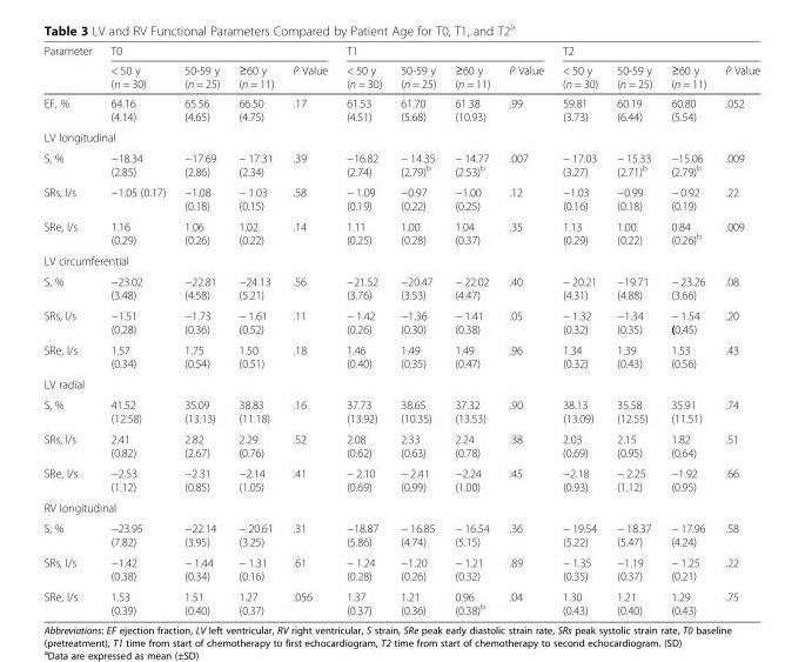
<table><thead><tr><td rowspan="2">Parameter</td><td colspan="4">T0</td><td colspan="4">T1</td><td colspan="4">T2</td></tr><tr><td>&lt; 50 y (n = 30)</td><td>50-59 y (n = 25)</td><td>≥60 y (n = 11)</td><td>P Value</td><td>&lt; 50 y (n = 30)</td><td>50-59 y (n = 25)</td><td>≥60 y (n = 11)</td><td>P Value</td><td>&lt; 50 y (n = 30)</td><td>50-59 y (n = 25)</td><td>≥60 y (n = 11)</td><td>P Value</td></tr></thead><tbody><tr><td>EF, %</td><td>64.16 (4.14)</td><td>65.56 (4.65)</td><td>66.50 (4.75)</td><td>.17</td><td>61.53 (4.51)</td><td>61.70 (5.68)</td><td>61.38 (10.93)</td><td>.99</td><td>59.81 (3.73)</td><td>60.19 (6.44)</td><td>60.80 (5.54)</td><td>.052</td></tr><tr><td colspan="13">LV longitudinal</td></tr><tr><td>S, %</td><td>−18.34 (2.85)</td><td>−17.69 (2.86)</td><td>− 17.31 (2.34)</td><td>.39</td><td>−16.82 (2.74)</td><td>− 14.35 (2.79)<sup>b</sup></td><td>− 14.77 (2.53)<sup>b</sup></td><td>.007</td><td>− 17.03 (3.27)</td><td>− 15.33 (2.71)<sup>b</sup></td><td>−15.06 (2.79)<sup>b</sup></td><td>.009</td></tr><tr><td>SRs, l/s</td><td>−1.05 (0.17)</td><td>−1.08 (0.18)</td><td>− 1.03 (0.15)</td><td>.58</td><td>− 1.09 (0.19)</td><td>−0.97 (0.22)</td><td>−1.00 (0.25)</td><td>.12</td><td>−1.03 (0.16)</td><td>−0.99 (0.18)</td><td>− 0.92 (0.19)</td><td>.22</td></tr><tr><td>SRe, l/s</td><td>1.16 (0.29)</td><td>1.06 (0.26)</td><td>1.02 (0.22)</td><td>.14</td><td>1.11 (0.25)</td><td>1.00 (0.28)</td><td>1.04 (0.37)</td><td>.35</td><td>1.13 (0.29)</td><td>1.00 (0.22)</td><td>0.84 (0.26)<sup>b</sup></td><td>.009</td></tr><tr><td colspan="13">LV circumferential</td></tr><tr><td>S, %</td><td>−23.02 (3.48)</td><td>−22.81 (4.58)</td><td>−24.13 (5.21)</td><td>.56</td><td>−21.52 (3.76)</td><td>−20.47 (3.53)</td><td>− 22.02 (4.47)</td><td>.40</td><td>− 20.21 (4.31)</td><td>−19.71 (4.88)</td><td>− 23.26 (3.66)</td><td>.08</td></tr><tr><td>SRs, l/s</td><td>−1.51 (0.28)</td><td>−1.73 (0.36)</td><td>− 1.61 (0.52)</td><td>.11</td><td>− 1.42 (0.26)</td><td>−1.36 (0.30)</td><td>− 1.41 (0.38)</td><td>.05</td><td>− 1.32 (0.32)</td><td>−1.34 (0.35)</td><td>− 1.54 (0.45)</td><td>.20</td></tr><tr><td>SRe, l/s</td><td>1.57 (0.34)</td><td>1.75 (0.54)</td><td>1.50 (0.51)</td><td>.18</td><td>1.46 (0.40)</td><td>1.49 (0.35)</td><td>1.49 (0.47)</td><td>.96</td><td>1.34 (0.32)</td><td>1.39 (0.43)</td><td>1.53 (0.56)</td><td>.43</td></tr><tr><td colspan="13">LV radial</td></tr><tr><td>S, %</td><td>41.52 (12.58)</td><td>35.09 (13.13)</td><td>38.83 (11.18)</td><td>.16</td><td>37.73 (13.92)</td><td>38.65 (10.35)</td><td>37.32 (13.53)</td><td>.90</td><td>38.13 (13.09)</td><td>35.58 (12.55)</td><td>35.91 (11.51)</td><td>.74</td></tr><tr><td>SRs, l/s</td><td>2.41 (0.82)</td><td>2.82 (2.67)</td><td>2.29 (0.76)</td><td>.52</td><td>2.08 (0.62)</td><td>2.33 (0.63)</td><td>2.24 (0.78)</td><td>.38</td><td>2.03 (0.69)</td><td>2.15 (0.95)</td><td>1.82 (0.64)</td><td>.51</td></tr><tr><td>SRe, l/s</td><td>−2.53 (1.12)</td><td>−2.31 (0.85)</td><td>−2.14 (1.05)</td><td>.41</td><td>− 2.10 (0.69)</td><td>− 2.41 (0.99)</td><td>−2.24 (1.00)</td><td>.45</td><td>−2.18 (0.93)</td><td>− 2.25 (1.12)</td><td>−1.92 (0.95)</td><td>.66</td></tr><tr><td colspan="13">RV longitudinal</td></tr><tr><td>S, %</td><td>−23.95 (7.82)</td><td>−22.14 (3.95)</td><td>− 20.61 (3.25)</td><td>.31</td><td>−18.87 (5.86)</td><td>− 16.85 (4.74)</td><td>− 16.54 (5.15)</td><td>.36</td><td>− 19.54 (5.22)</td><td>− 18.37 (5.47)</td><td>− 17.96 (4.24)</td><td>.58</td></tr><tr><td>SRs, l/s</td><td>−1.42 (0.38)</td><td>− 1.44 (0.34)</td><td>− 1.31 (0.16)</td><td>.61</td><td>− 1.24 (0.28)</td><td>−1.20 (0.26)</td><td>− 1.21 (0.32)</td><td>.89</td><td>− 1.35 (0.35)</td><td>−1.19 (0.37)</td><td>− 1.25 (0.21)</td><td>.22</td></tr><tr><td>SRe, l/s</td><td>1.53 (0.39)</td><td>1.51 (0.40)</td><td>1.27 (0.37)</td><td>.056</td><td>1.37 (0.37)</td><td>1.21 (0.36)</td><td>0.96 (0.38)<sup>b</sup></td><td>.04</td><td>1.30 (0.43)</td><td>1.21 (0.40)</td><td>1.29 (0.43)</td><td>.75</td></tr></tbody></table>